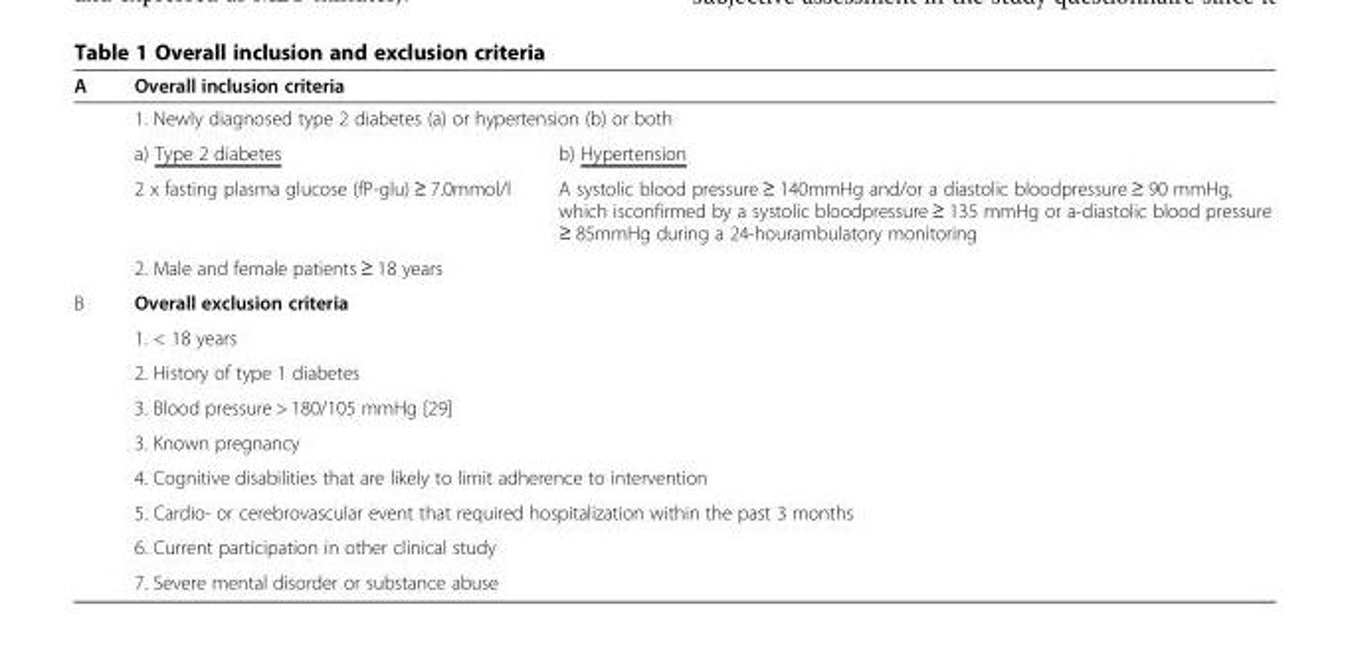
<table><thead><tr><td rowspan="2" colspan="2">A Overall inclusion criteria 1. Newly diagnosed type 2 diabetes (a) or hypertension (b) or both</td></tr><tr></tr><tr><td>a) Type 2 diabetes</td><td>b) Hypertension</td></tr></thead><tbody><tr><td>2 x fasting plasma glucose (fP-glu) ≥ 7.0mmol/l</td><td>A systolic blood pressure ≥ 140mmHg and/or a diastolic bloodpressure ≥ 90 mmHg, which isconfirmed by a systolic bloodpressure ≥ 135 mmHg or a-diastolic blood pressure ≥ 85mmHg during a 24-hourambulatory monitoring</td></tr><tr><td colspan="2">2. Male and female patients ≥ 18 years</td></tr><tr><td colspan="2">B Overall exclusion criteria</td></tr><tr><td colspan="2">1. &lt; 18 years</td></tr><tr><td colspan="2">2. History of type 1 diabetes</td></tr><tr><td colspan="2">3. Blood pressure &gt; 180/105 mmHg [29]</td></tr><tr><td colspan="2">3. Known pregnancy</td></tr><tr><td colspan="2">4. Cognitive disabilities that are likely to limit adherence to intervention</td></tr><tr><td colspan="2">5. Cardio- or cerebrovascular event that required hospitalization within the past 3 months</td></tr><tr><td colspan="2">6. Current participation in other clinical study</td></tr><tr><td colspan="2">7. Severe mental disorder or substance abuse</td></tr></tbody></table>